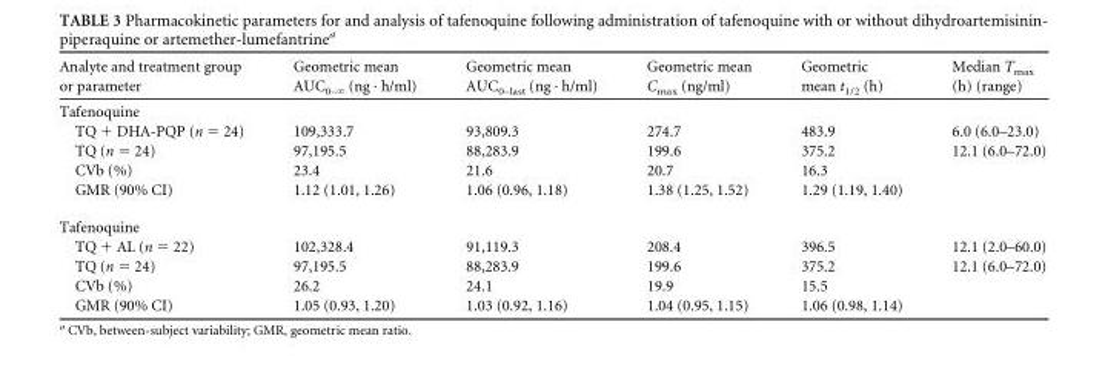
<table><thead><tr><td>Analyte and treatment group or parameter</td><td>Geometric mean AUC<sub>0–∞</sub> (ng · h/ml)</td><td>Geometric mean AUC<sub>0–last</sub> (ng · h/ml)</td><td>Geometric mean C<sub>max</sub> (ng/ml)</td><td>Geometric mean t<sub>1/2</sub> (h)</td><td>Median T<sub>max</sub> (h) (range)</td></tr></thead><tbody><tr><td colspan="6">Tafenoquine</td></tr><tr><td>TQ + DHA-PQP (n = 24)</td><td>109,333.7</td><td>93,809.3</td><td>274.7</td><td>483.9</td><td>6.0 (6.0–23.0)</td></tr><tr><td>TQ (n = 24)</td><td>97,195.5</td><td>88,283.9</td><td>199.6</td><td>375.2</td><td>12.1 (6.0–72.0)</td></tr><tr><td>CVb (%)</td><td>23.4</td><td>21.6</td><td>20.7</td><td>16.3</td><td></td></tr><tr><td>GMR (90% CI)</td><td>1.12 (1.01, 1.26)</td><td>1.06 (0.96, 1.18)</td><td>1.38 (1.25, 1.52)</td><td>1.29 (1.19, 1.40)</td><td></td></tr><tr><td colspan="6">Tafenoquine</td></tr><tr><td>TQ + AL (n = 22)</td><td>102,328.4</td><td>91,119.3</td><td>208.4</td><td>396.5</td><td>12.1 (2.0–60.0)</td></tr><tr><td>TQ (n = 24)</td><td>97,195.5</td><td>88,283.9</td><td>199.6</td><td>375.2</td><td>12.1 (6.0–72.0)</td></tr><tr><td>CVb (%)</td><td>26.2</td><td>24.1</td><td>19.9</td><td>15.5</td><td></td></tr><tr><td>GMR (90% CI)</td><td>1.05 (0.93, 1.20)</td><td>1.03 (0.92, 1.16)</td><td>1.04 (0.95, 1.15)</td><td>1.06 (0.98, 1.14)</td><td></td></tr></tbody></table>